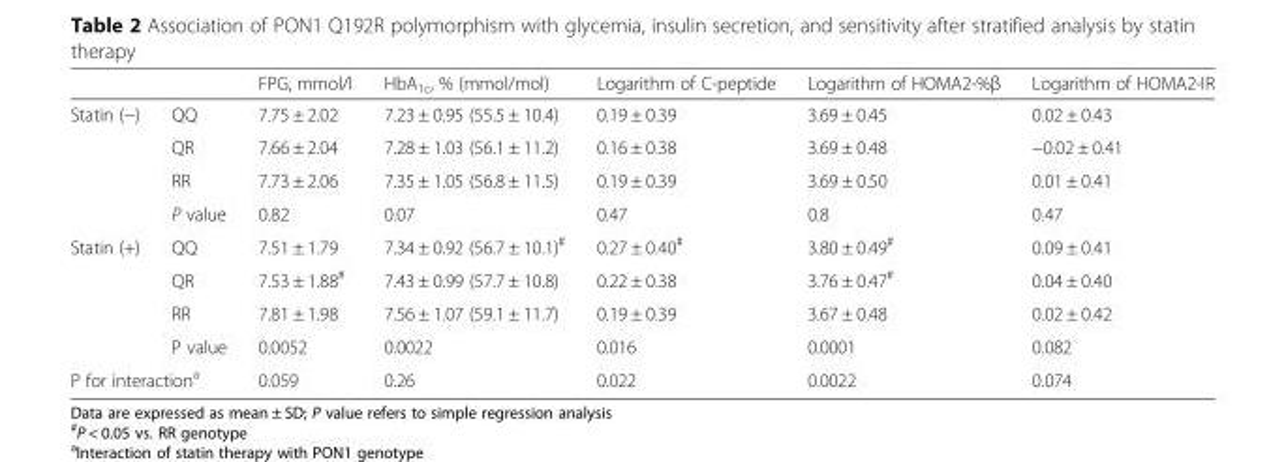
<table><thead><tr><td></td><td></td><td>FPG, mmol/l</td><td>HbA<sub>1c</sub>, % (mmol/mol)</td><td>Logarithm of C-peptide</td><td>Logarithm of HOMA2-%β</td><td>Logarithm of HOMA2-IR</td></tr></thead><tbody><tr><td rowspan="4">Statin (−)</td><td>QQ</td><td>7.75 ± 2.02</td><td>7.23 ± 0.95 (55.5 ± 10.4)</td><td>0.19 ± 0.39</td><td>3.69 ± 0.45</td><td>0.02 ± 0.43</td></tr><tr><td>QR</td><td>7.66 ± 2.04</td><td>7.28 ± 1.03 (56.1 ± 11.2)</td><td>0.16 ± 0.38</td><td>3.69 ± 0.48</td><td>−0.02 ± 0.41</td></tr><tr><td>RR</td><td>7.73 ± 2.06</td><td>7.35 ± 1.05 (56.8 ± 11.5)</td><td>0.19 ± 0.39</td><td>3.69 ± 0.50</td><td>0.01 ± 0.41</td></tr><tr><td>P value</td><td>0.82</td><td>0.07</td><td>0.47</td><td>0.8</td><td>0.47</td></tr><tr><td rowspan="4">Statin (+)</td><td>QQ</td><td>7.51 ± 1.79</td><td>7.34 ± 0.92 (56.7 ± 10.1)<sup>#</sup></td><td>0.27 ± 0.40<sup>#</sup></td><td>3.80 ± 0.49<sup>#</sup></td><td>0.09 ± 0.41</td></tr><tr><td>QR</td><td>7.53 ± 1.88<sup>#</sup></td><td>7.43 ± 0.99 (57.7 ± 10.8)</td><td>0.22 ± 0.38</td><td>3.76 ± 0.47<sup>#</sup></td><td>0.04 ± 0.40</td></tr><tr><td>RR</td><td>7.81 ± 1.98</td><td>7.56 ± 1.07 (59.1 ± 11.7)</td><td>0.19 ± 0.39</td><td>3.67 ± 0.48</td><td>0.02 ± 0.42</td></tr><tr><td>P value</td><td>0.0052</td><td>0.0022</td><td>0.016</td><td>0.0001</td><td>0.082</td></tr><tr><td colspan="2">P for interaction<sup>a</sup></td><td>0.059</td><td>0.26</td><td>0.022</td><td>0.0022</td><td>0.074</td></tr></tbody></table>